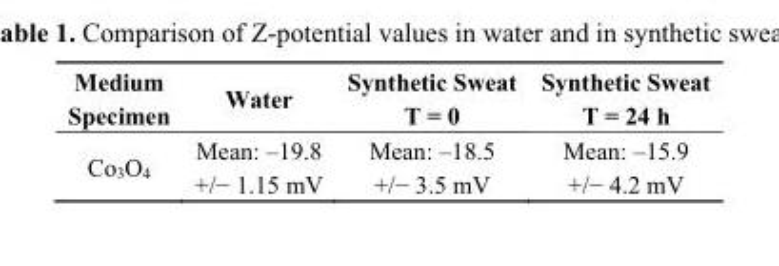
<table><thead><tr><td>Medium Specimen</td><td>Water</td><td>Synthetic Sweat T = 0</td><td>Synthetic Sweat T = 24 h</td></tr></thead><tbody><tr><td>Co<sub>3</sub>O<sub>4</sub></td><td>Mean: –19.8 +/− 1.15 mV</td><td>Mean: –18.5 +/− 3.5 mV</td><td>Mean: –15.9 +/− 4.2 mV</td></tr></tbody></table>